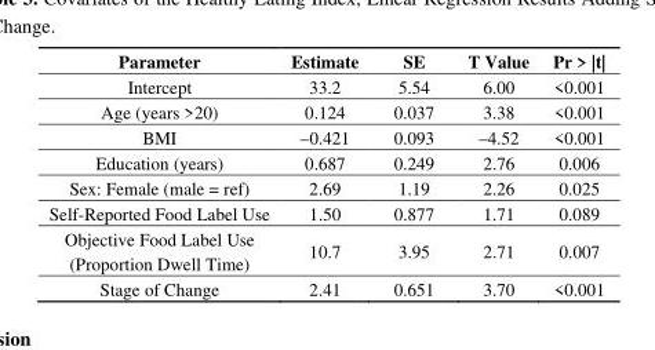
<table><thead><tr><td>Parameter</td><td>Estimate</td><td>SE</td><td>T Value</td><td>Pr &gt; |t|</td></tr></thead><tbody><tr><td>Intercept</td><td>33.2</td><td>5.54</td><td>6.00</td><td>&lt;0.001</td></tr><tr><td>Age (years &gt;20)</td><td>0.124</td><td>0.037</td><td>3.38</td><td>&lt;0.001</td></tr><tr><td>BMI</td><td>–0.421</td><td>0.093</td><td>–4.52</td><td>&lt;0.001</td></tr><tr><td>Education (years)</td><td>0.687</td><td>0.249</td><td>2.76</td><td>0.006</td></tr><tr><td>Sex: Female (male = ref)</td><td>2.69</td><td>1.19</td><td>2.26</td><td>0.025</td></tr><tr><td>Self-Reported Food Label Use</td><td>1.50</td><td>0.877</td><td>1.71</td><td>0.089</td></tr><tr><td>Objective Food Label Use (Proportion Dwell Time)</td><td>10.7</td><td>3.95</td><td>2.71</td><td>0.007</td></tr><tr><td>Stage of Change</td><td>2.41</td><td>0.651</td><td>3.70</td><td>&lt;0.001</td></tr></tbody></table>